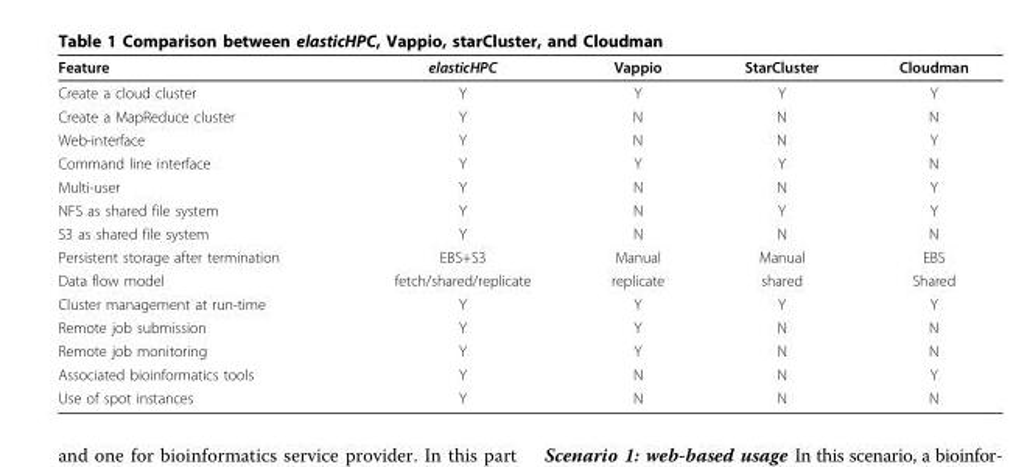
<table><thead><tr><td>Feature</td><td>elasticHPC</td><td>Vappio</td><td>StarCluster</td><td>Cloudman</td></tr></thead><tbody><tr><td>Create a cloud cluster</td><td>Y</td><td>Y</td><td>Y</td><td>Y</td></tr><tr><td>Create a MapReduce cluster</td><td>Y</td><td>N</td><td>N</td><td>N</td></tr><tr><td>Web-interface</td><td>Y</td><td>N</td><td>N</td><td>Y</td></tr><tr><td>Command line interface</td><td>Y</td><td>Y</td><td>Y</td><td>N</td></tr><tr><td>Multi-user</td><td>Y</td><td>N</td><td>N</td><td>Y</td></tr><tr><td>NFS as shared file system</td><td>Y</td><td>N</td><td>Y</td><td>Y</td></tr><tr><td>S3 as shared file system</td><td>Y</td><td>N</td><td>N</td><td>N</td></tr><tr><td>Persistent storage after termination</td><td>EBS+S3</td><td>Manual</td><td>Manual</td><td>EBS</td></tr><tr><td>Data flow model</td><td>fetch/shared/replicate</td><td>replicate</td><td>shared</td><td>Shared</td></tr><tr><td>Cluster management at run-time</td><td>Y</td><td>Y</td><td>Y</td><td>Y</td></tr><tr><td>Remote job submission</td><td>Y</td><td>Y</td><td>N</td><td>N</td></tr><tr><td>Remote job monitoring</td><td>Y</td><td>Y</td><td>N</td><td>N</td></tr><tr><td>Associated bioinformatics tools</td><td>Y</td><td>N</td><td>N</td><td>Y</td></tr><tr><td>Use of spot instances</td><td>Y</td><td>N</td><td>N</td><td>N</td></tr></tbody></table>